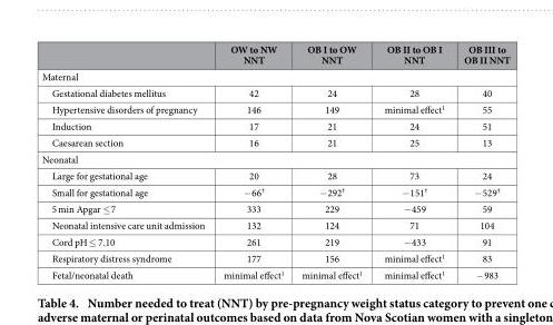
<table><thead><tr><td></td><td>OW to NW NNT</td><td>OB I to OW NNT</td><td>OB II to OB I NNT</td><td>OB III to OB II NNT</td></tr></thead><tbody><tr><td colspan="5">Maternal</td></tr><tr><td>Gestational diabetes mellitus</td><td>42</td><td>24</td><td>28</td><td>40</td></tr><tr><td>Hypertensive disorders of pregnancy</td><td>146</td><td>149</td><td>minimal effect<sup>1</sup></td><td>55</td></tr><tr><td>Induction</td><td>17</td><td>21</td><td>24</td><td>51</td></tr><tr><td>Caesarean section</td><td>16</td><td>21</td><td>25</td><td>13</td></tr><tr><td colspan="5">Neonatal</td></tr><tr><td>Large for gestational age</td><td>20</td><td>28</td><td>73</td><td>24</td></tr><tr><td>Small for gestational age</td><td>− 66†</td><td>− 292†</td><td>− 151†</td><td>− 529†</td></tr><tr><td>5 min Apgar ≤ 7</td><td>333</td><td>229</td><td>− 459</td><td>59</td></tr><tr><td>Neonatal intensive care unit admission</td><td>132</td><td>124</td><td>71</td><td>104</td></tr><tr><td>Cord pH ≤ 7.10</td><td>261</td><td>219</td><td>− 433</td><td>91</td></tr><tr><td>Respiratory distress syndrome</td><td>177</td><td>156</td><td>minimal effect<sup>1</sup></td><td>83</td></tr><tr><td>Fetal/neonatal death</td><td>minimal effect<sup>1</sup></td><td>minimal effect<sup>1</sup></td><td>minimal effect<sup>1</sup></td><td>− 983</td></tr></tbody></table>